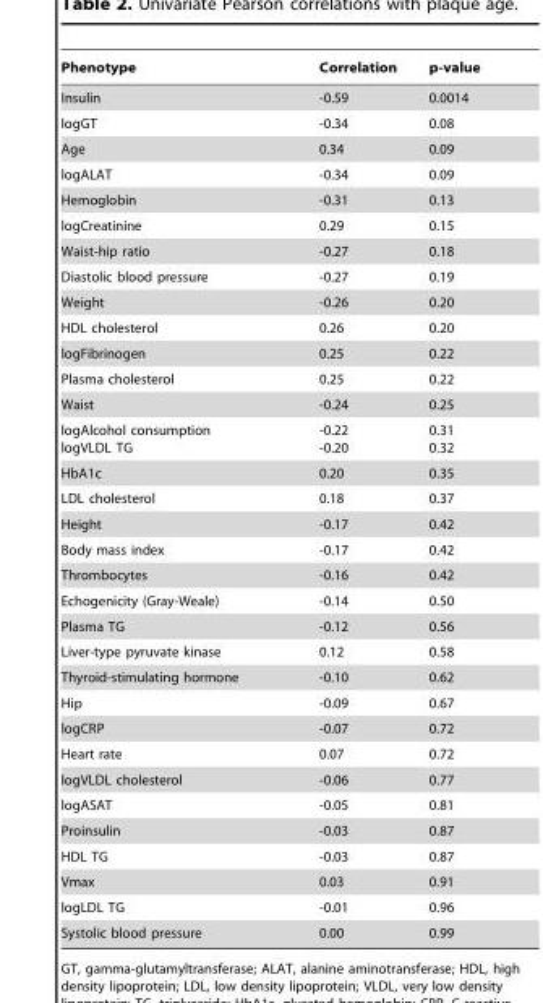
<table><thead><tr><td>Phenotype</td><td>Correlation</td><td>p-value</td></tr></thead><tbody><tr><td>Insulin</td><td>-0.59</td><td>0.0014</td></tr><tr><td>logGT</td><td>-0.34</td><td>0.08</td></tr><tr><td>Age</td><td>0.34</td><td>0.09</td></tr><tr><td>logALAT</td><td>-0.34</td><td>0.09</td></tr><tr><td>Hemoglobin</td><td>-0.31</td><td>0.13</td></tr><tr><td>logCreatinine</td><td>0.29</td><td>0.15</td></tr><tr><td>Waist-hip ratio</td><td>-0.27</td><td>0.18</td></tr><tr><td>Diastolic blood pressure</td><td>-0.27</td><td>0.19</td></tr><tr><td>Weight</td><td>-0.26</td><td>0.20</td></tr><tr><td>HDL cholesterol</td><td>0.26</td><td>0.20</td></tr><tr><td>logFibrinogen</td><td>0.25</td><td>0.22</td></tr><tr><td>Plasma cholesterol</td><td>0.25</td><td>0.22</td></tr><tr><td>Waist</td><td>-0.24</td><td>0.25</td></tr><tr><td>logAlcohol consumption logVLDL TG</td><td>-0.22 -0.20</td><td>0.31 0.32</td></tr><tr><td>HbA1c</td><td>0.20</td><td>0.35</td></tr><tr><td>LDL cholesterol</td><td>0.18</td><td>0.37</td></tr><tr><td>Height</td><td>-0.17</td><td>0.42</td></tr><tr><td>Body mass index</td><td>-0.17</td><td>0.42</td></tr><tr><td>Thrombocytes</td><td>-0.16</td><td>0.42</td></tr><tr><td>Echogenicity (Gray-Weale)</td><td>-0.14</td><td>0.50</td></tr><tr><td>Plasma TG</td><td>-0.12</td><td>0.56</td></tr><tr><td>Liver-type pyruvate kinase</td><td>0.12</td><td>0.58</td></tr><tr><td>Thyroid-stimulating hormone</td><td>-0.10</td><td>0.62</td></tr><tr><td>Hip</td><td>-0.09</td><td>0.67</td></tr><tr><td>logCRP</td><td>-0.07</td><td>0.72</td></tr><tr><td>Heart rate</td><td>0.07</td><td>0.72</td></tr><tr><td>logVLDL cholesterol</td><td>-0.06</td><td>0.77</td></tr><tr><td>logASAT</td><td>-0.05</td><td>0.81</td></tr><tr><td>Proinsulin</td><td>-0.03</td><td>0.87</td></tr><tr><td>HDL TG</td><td>-0.03</td><td>0.87</td></tr><tr><td>Vmax</td><td>0.03</td><td>0.91</td></tr><tr><td>logLDL TG</td><td>-0.01</td><td>0.96</td></tr><tr><td>Systolic blood pressure</td><td>0.00</td><td>0.99</td></tr></tbody></table>